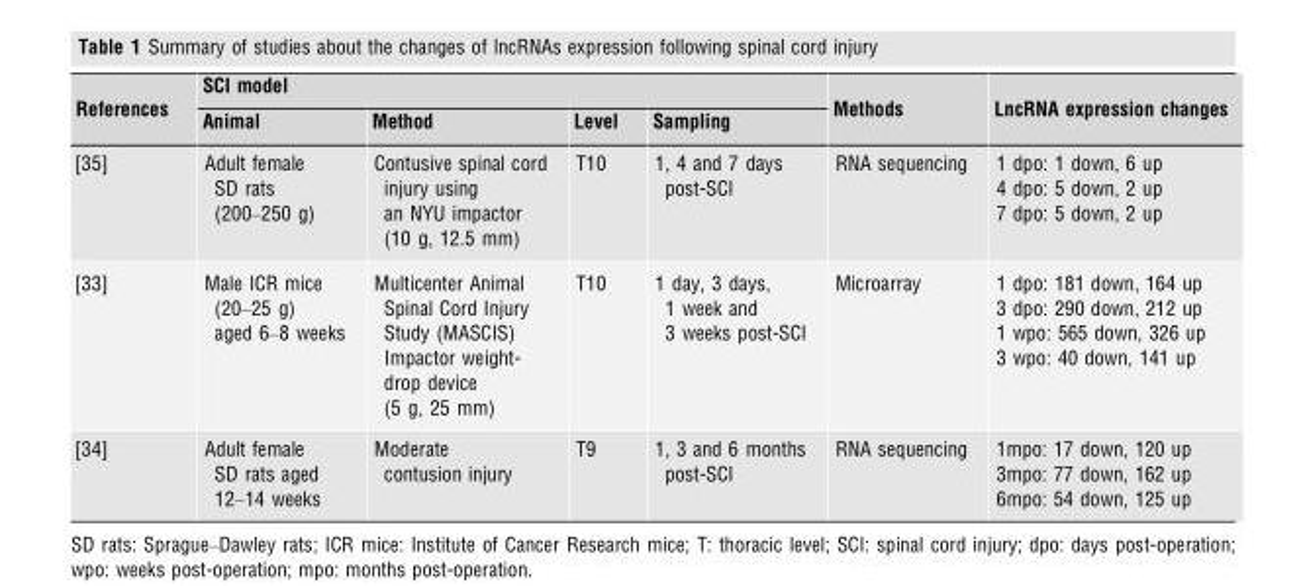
<table><thead><tr><td rowspan="2">References</td><td colspan="4">SCI model</td><td rowspan="2">Methods</td><td rowspan="2">LncRNA expression changes</td></tr><tr><td>Animal</td><td>Method</td><td>Level</td><td>Sampling</td></tr></thead><tbody><tr><td>[35]</td><td>Adult female SD rats (200–250 g)</td><td>Contusive spinal cord injury using an NYU impactor (10 g, 12.5 mm)</td><td>T10</td><td>1, 4 and 7 days post-SCI</td><td>RNA sequencing</td><td>1 dpo: 1 down, 6 up 4 dpo: 5 down, 2 up 7 dpo: 5 down, 2 up</td></tr><tr><td>[33]</td><td>Male ICR mice (20–25 g) aged 6–8 weeks</td><td>Multicenter Animal Spinal Cord Injury Study (MASCIS) Impactor weight- drop device (5 g, 25 mm)</td><td>T10</td><td>1 day, 3 days, 1 week and 3 weeks post-SCI</td><td>Microarray</td><td>1 dpo: 181 down, 164 up 3 dpo: 290 down, 212 up 1 wpo: 565 down, 326 up 3 wpo: 40 down, 141 up</td></tr><tr><td>[34]</td><td>Adult female SD rats aged 12–14 weeks</td><td>Moderate contusion injury</td><td>T9</td><td>1, 3 and 6 months post-SCI</td><td>RNA sequencing</td><td>1mpo: 17 down, 120 up 3mpo: 77 down, 162 up 6mpo: 54 down, 125 up</td></tr></tbody></table>